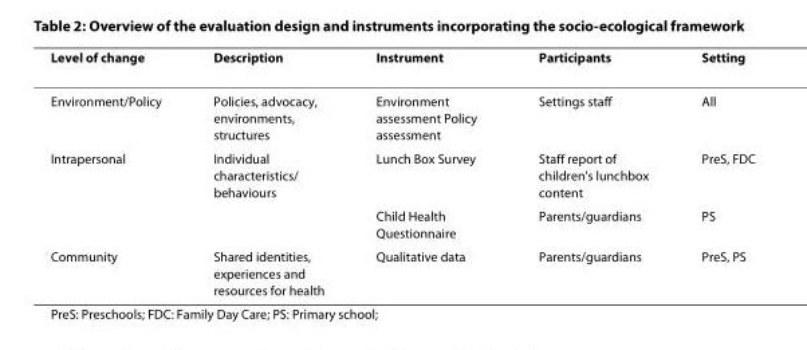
<table><thead><tr><td>Level of change</td><td>Description</td><td>Instrument</td><td>Participants</td><td>Setting</td></tr></thead><tbody><tr><td>Environment/Policy</td><td>Policies, advocacy, environments, structures</td><td>Environment assessment Policy assessment</td><td>Settings staff</td><td>All</td></tr><tr><td rowspan="2">Intrapersonal</td><td>Individual characteristics/ behaviours</td><td>Lunch Box Survey</td><td>Staff report of children&#x27;s lunchbox content</td><td>PreS, FDC</td></tr><tr><td></td><td>Child Health Questionnaire</td><td>Parents/guardians</td><td>PS</td></tr><tr><td>Community</td><td>Shared identities, experiences and resources for health</td><td>Qualitative data</td><td>Parents/guardians</td><td>PreS, PS</td></tr></tbody></table>